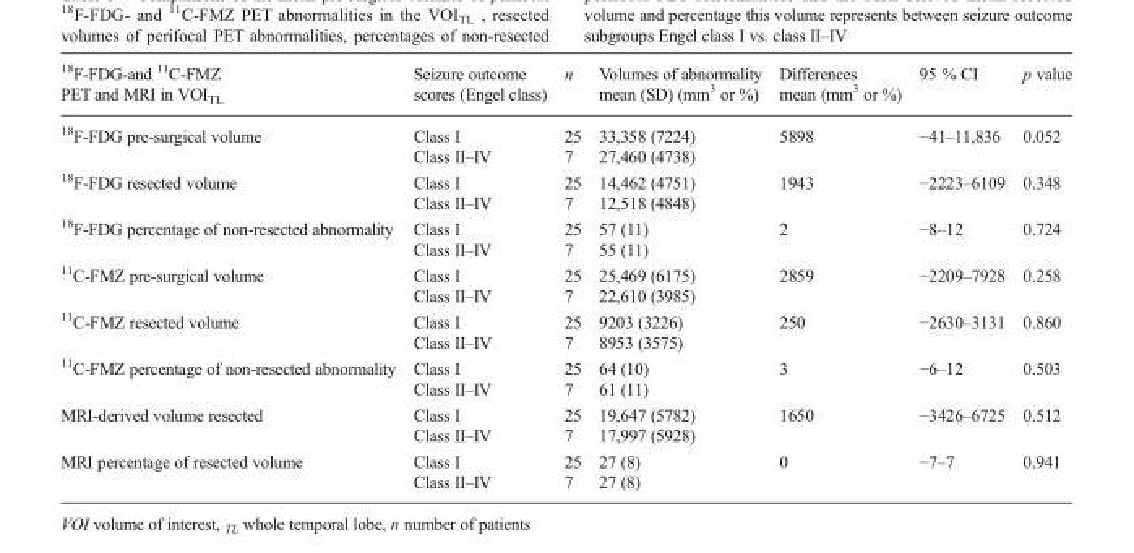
<table><thead><tr><td><sup>18</sup>F-FDG-and <sup>11</sup>C-FMZ PET and MRI in VOI<sub>TL</sub></td><td>Seizure outcome scores (Engel class)</td><td>n</td><td>Volumes of abnormality mean (SD) (mm<sup>3</sup> or %)</td><td>Differences mean (mm<sup>3</sup> or %)</td><td>95 % CI</td><td>p value</td></tr></thead><tbody><tr><td rowspan="2"><sup>18</sup>F-FDG pre-surgical volume</td><td>Class I</td><td>25</td><td>33,358 (7224)</td><td rowspan="2">5898</td><td rowspan="2">−41–11,836</td><td rowspan="2">0.052</td></tr><tr><td>Class II–IV</td><td>7</td><td>27,460 (4738)</td></tr><tr><td rowspan="2"><sup>18</sup>F-FDG resected volume</td><td>Class I</td><td>25</td><td>14,462 (4751)</td><td rowspan="2">1943</td><td rowspan="2">−2223–6109</td><td rowspan="2">0.348</td></tr><tr><td>Class II–IV</td><td>7</td><td>12,518 (4848)</td></tr><tr><td rowspan="2"><sup>18</sup>F-FDG percentage of non-resected abnormality</td><td>Class I</td><td>25</td><td>57 (11)</td><td rowspan="2">2</td><td rowspan="2">−8–12</td><td rowspan="2">0.724</td></tr><tr><td>Class II–IV</td><td>7</td><td>55 (11)</td></tr><tr><td rowspan="2"><sup>11</sup>C-FMZ pre-surgical volume</td><td>Class I</td><td>25</td><td>25,469 (6175)</td><td rowspan="2">2859</td><td rowspan="2">−2209–7928</td><td rowspan="2">0.258</td></tr><tr><td>Class II–IV</td><td>7</td><td>22,610 (3985)</td></tr><tr><td rowspan="2"><sup>11</sup>C-FMZ resected volume</td><td>Class I</td><td>25</td><td>9203 (3226)</td><td rowspan="2">250</td><td rowspan="2">−2630–3131</td><td rowspan="2">0.860</td></tr><tr><td>Class II–IV</td><td>7</td><td>8953 (3575)</td></tr><tr><td rowspan="2"><sup>11</sup>C-FMZ percentage of non-resected abnormality</td><td>Class I</td><td>25</td><td>64 (10)</td><td rowspan="2">3</td><td rowspan="2">−6–12</td><td rowspan="2">0.503</td></tr><tr><td>Class II–IV</td><td>7</td><td>61 (11)</td></tr><tr><td rowspan="2">MRI-derived volume resected</td><td>Class I</td><td>25</td><td>19,647 (5782)</td><td rowspan="2">1650</td><td rowspan="2">−3426–6725</td><td rowspan="2">0.512</td></tr><tr><td>Class II–IV</td><td>7</td><td>17,997 (5928)</td></tr><tr><td rowspan="2">MRI percentage of resected volume</td><td>Class I</td><td>25</td><td>27 (8)</td><td rowspan="2">0</td><td rowspan="2">−7–7</td><td rowspan="2">0.941</td></tr><tr><td>Class II–IV</td><td>7</td><td>27 (8)</td></tr></tbody></table>